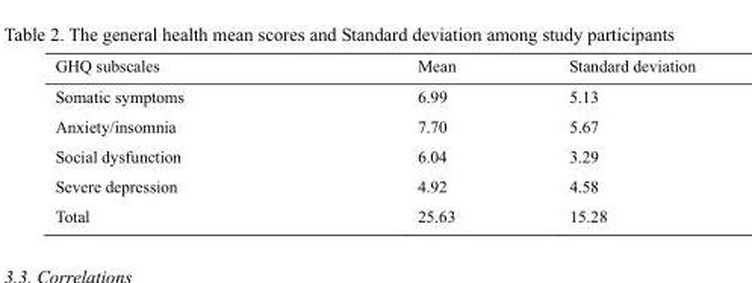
<table><thead><tr><td>GHQ subscales</td><td>Mean</td><td>Standard deviation</td></tr></thead><tbody><tr><td>Somatic symptoms</td><td>6.99</td><td>5.13</td></tr><tr><td>Anxiety/insomnia</td><td>7.70</td><td>5.67</td></tr><tr><td>Social dysfunction</td><td>6.04</td><td>3.29</td></tr><tr><td>Severe depression</td><td>4.92</td><td>4.58</td></tr><tr><td>Total</td><td>25.63</td><td>15.28</td></tr></tbody></table>